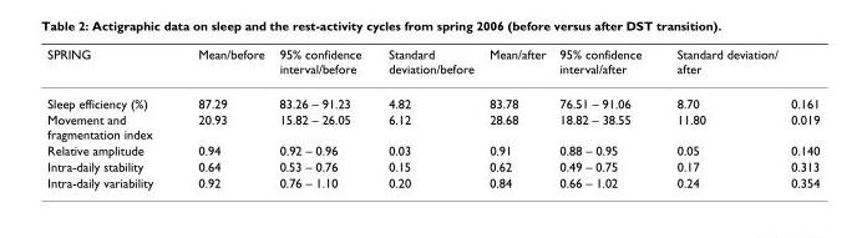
<table><thead><tr><td>SPRING</td><td>Mean/before</td><td>95% confidence interval/before</td><td>Standard deviation/before</td><td>Mean/after</td><td>95% confidence interval/after</td><td>Standard deviation/ after</td><td></td></tr></thead><tbody><tr><td>Sleep efficiency (%)</td><td>87.29</td><td>83.26 – 91.23</td><td>4.82</td><td>83.78</td><td>76.51 – 91.06</td><td>8.70</td><td>0.161</td></tr><tr><td>Movement and fragmentation index</td><td>20.93</td><td>15.82 – 26.05</td><td>6.12</td><td>28.68</td><td>18.82 – 38.55</td><td>11.80</td><td>0.019</td></tr><tr><td>Relative amplitude</td><td>0.94</td><td>0.92 – 0.96</td><td>0.03</td><td>0.91</td><td>0.88 – 0.95</td><td>0.05</td><td>0.140</td></tr><tr><td>Intra-daily stability</td><td>0.64</td><td>0.53 – 0.76</td><td>0.15</td><td>0.62</td><td>0.49 – 0.75</td><td>0.17</td><td>0.313</td></tr><tr><td>Intra-daily variability</td><td>0.92</td><td>0.76 – 1.10</td><td>0.20</td><td>0.84</td><td>0.66 – 1.02</td><td>0.24</td><td>0.354</td></tr></tbody></table>